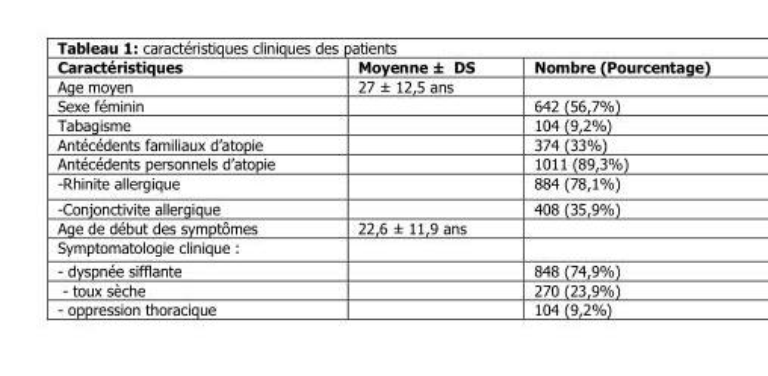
<table><thead><tr><td>Caractéristiques</td><td>Moyenne ± DS</td><td>Nombre (Pourcentage)</td></tr></thead><tbody><tr><td>Age moyen</td><td>27 ± 12,5 ans</td><td></td></tr><tr><td>Sexe féminin</td><td></td><td>642 (56,7%)</td></tr><tr><td>Tabagisme</td><td></td><td>104 (9,2%)</td></tr><tr><td>Antécédents familiaux d’atopie</td><td></td><td>374 (33%)</td></tr><tr><td>Antécédents personnels d’atopie</td><td></td><td>1011 (89,3%)</td></tr><tr><td>-Rhinite allergique</td><td></td><td>884 (78,1%)</td></tr><tr><td>-Conjonctivite allergique</td><td></td><td>408 (35,9%)</td></tr><tr><td>Age de début des symptômes</td><td>22,6 ± 11,9 ans</td><td></td></tr><tr><td colspan="3">Symptomatologie clinique :</td></tr><tr><td>- dyspnée sifflante</td><td></td><td>848 (74,9%)</td></tr><tr><td>- toux sèche</td><td></td><td>270 (23,9%)</td></tr><tr><td>- oppression thoracique</td><td></td><td>104 (9,2%)</td></tr></tbody></table>